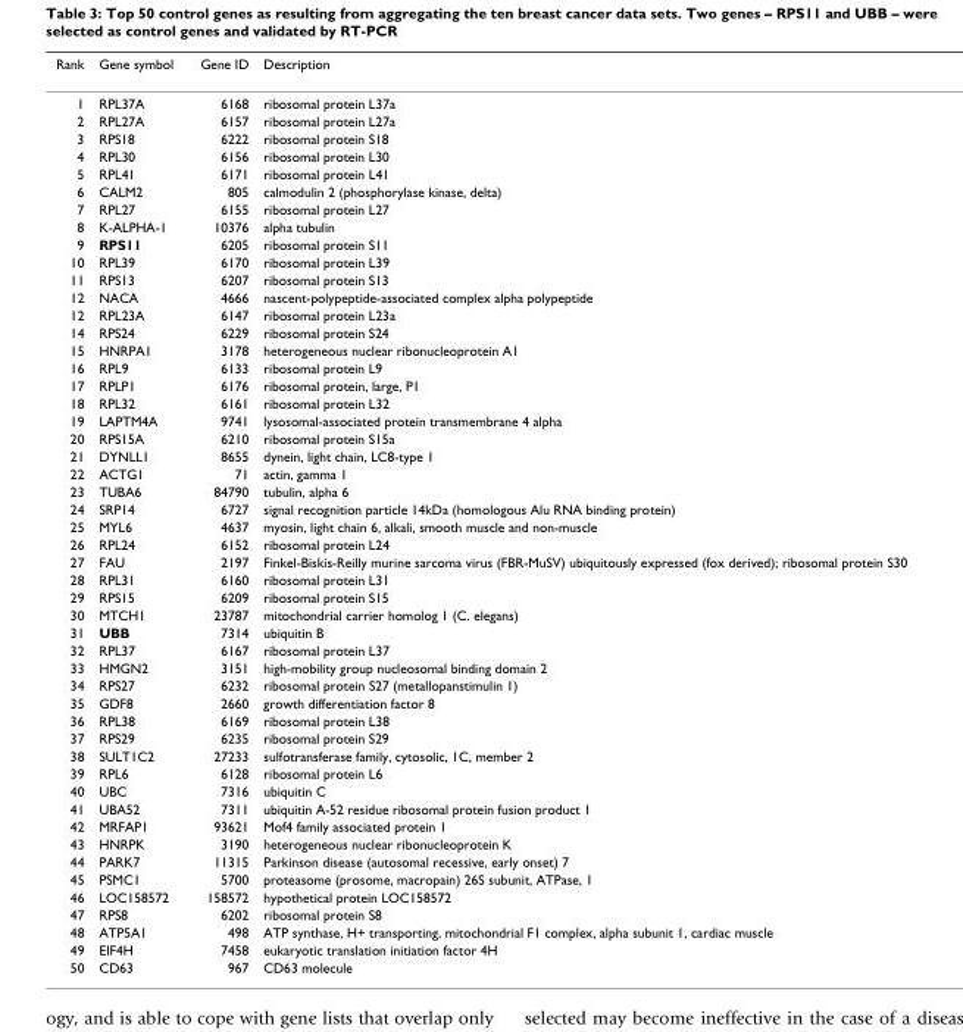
<table><thead><tr><td>Rank</td><td>Gene symbol</td><td>Gene ID</td><td>Description</td></tr></thead><tbody><tr><td>1</td><td>RPL37A</td><td>6168</td><td>ribosomal protein L37a</td></tr><tr><td>2</td><td>RPL27A</td><td>6157</td><td>ribosomal protein L27a</td></tr><tr><td>3</td><td>RPS18</td><td>6222</td><td>ribosomal protein S18</td></tr><tr><td>4</td><td>RPL30</td><td>6156</td><td>ribosomal protein L30</td></tr><tr><td>5</td><td>RPL41</td><td>6171</td><td>ribosomal protein L41</td></tr><tr><td>6</td><td>CALM2</td><td>805</td><td>calmodulin 2 (phosphorylase kinase, delta)</td></tr><tr><td>7</td><td>RPL27</td><td>6155</td><td>ribosomal protein L27</td></tr><tr><td>8</td><td>K-ALPHA-1</td><td>10376</td><td>alpha tubulin</td></tr><tr><td>9</td><td>RPS11</td><td>6205</td><td>ribosomal protein S11</td></tr><tr><td>10</td><td>RPL39</td><td>6170</td><td>ribosomal protein L39</td></tr><tr><td>11</td><td>RPS13</td><td>6207</td><td>ribosomal protein S13</td></tr><tr><td>12</td><td>NACA</td><td>4666</td><td>nascent-polypeptide-associated complex alpha polypeptide</td></tr><tr><td>12</td><td>RPL23A</td><td>6147</td><td>ribosomal protein L23a</td></tr><tr><td>14</td><td>RPS24</td><td>6229</td><td>ribosomal protein S24</td></tr><tr><td>15</td><td>HNRPA1</td><td>3178</td><td>heterogeneous nuclear ribonucleoprotein A1</td></tr><tr><td>16</td><td>RPL9</td><td>6133</td><td>ribosomal protein L9</td></tr><tr><td>17</td><td>RPLP1</td><td>6176</td><td>ribosomal protein, large, P1</td></tr><tr><td>18</td><td>RPL32</td><td>6161</td><td>ribosomal protein L32</td></tr><tr><td>19</td><td>LAPTM4A</td><td>9741</td><td>lysosomal-associated protein transmembrane 4 alpha</td></tr><tr><td>20</td><td>RPS15A</td><td>6210</td><td>ribosomal protein S15a</td></tr><tr><td>21</td><td>DYNLL1</td><td>8655</td><td>dynein, light chain, LC8-type 1</td></tr><tr><td>22</td><td>ACTG1</td><td>71</td><td>actin, gamma 1</td></tr><tr><td>23</td><td>TUBA6</td><td>84790</td><td>tubulin, alpha 6</td></tr><tr><td>24</td><td>SRP14</td><td>6727</td><td>signal recognition particle 14kDa (homologous Alu RNA binding protein)</td></tr><tr><td>25</td><td>MYL6</td><td>4637</td><td>myosin, light chain 6, alkali, smooth muscle and non-muscle</td></tr><tr><td>26</td><td>RPL24</td><td>6152</td><td>ribosomal protein L24</td></tr><tr><td>27</td><td>FAU</td><td>2197</td><td>Finkel-Biskis-Reilly murine sarcoma virus (FBR-MuSV) ubiquitously expressed (fox derived); ribosomal protein S30</td></tr><tr><td>28</td><td>RPL31</td><td>6160</td><td>ribosomal protein L31</td></tr><tr><td>29</td><td>RPS15</td><td>6209</td><td>ribosomal protein S15</td></tr><tr><td>30</td><td>MTCH1</td><td>23787</td><td>mitochondrial carrier homolog 1 (C. elegans)</td></tr><tr><td>31</td><td>UBB</td><td>7314</td><td>ubiquitin B</td></tr><tr><td>32</td><td>RPL37</td><td>6167</td><td>ribosomal protein L37</td></tr><tr><td>33</td><td>HMGN2</td><td>3151</td><td>high-mobility group nucleosomal binding domain 2</td></tr><tr><td>34</td><td>RPS27</td><td>6232</td><td>ribosomal protein S27 (metallopanstimulin 1)</td></tr><tr><td>35</td><td>GDF8</td><td>2660</td><td>growth differentiation factor 8</td></tr><tr><td>36</td><td>RPL38</td><td>6169</td><td>ribosomal protein L38</td></tr><tr><td>37</td><td>RPS29</td><td>6235</td><td>ribosomal protein S29</td></tr><tr><td>38</td><td>SULT1C2</td><td>27233</td><td>sulfotransferase family, cytosolic, 1C, member 2</td></tr><tr><td>39</td><td>RPL6</td><td>6128</td><td>ribosomal protein L6</td></tr><tr><td>40</td><td>UBC</td><td>7316</td><td>ubiquitin C</td></tr><tr><td>41</td><td>UBA52</td><td>7311</td><td>ubiquitin A-52 residue ribosomal protein fusion product 1</td></tr><tr><td>42</td><td>MRFAP1</td><td>93621</td><td>Mof4 family associated protein 1</td></tr><tr><td>43</td><td>HNRPK</td><td>3190</td><td>heterogeneous nuclear ribonucleoprotein K</td></tr><tr><td>44</td><td>PARK7</td><td>11315</td><td>Parkinson disease (autosomal recessive, early onset) 7</td></tr><tr><td>45</td><td>PSMC1</td><td>5700</td><td>proteasome (prosome, macropain) 26S subunit, ATPase, 1</td></tr><tr><td>46</td><td>LOC158572</td><td>158572</td><td>hypothetical protein LOC158572</td></tr><tr><td>47</td><td>RPS8</td><td>6202</td><td>ribosomal protein S8</td></tr><tr><td>48</td><td>ATP5A1</td><td>498</td><td>ATP synthase, H+ transporting, mitochondrial F1 complex, alpha subunit 1, cardiac muscle</td></tr><tr><td>49</td><td>EIF4H</td><td>7458</td><td>eukaryotic translation initiation factor 4H</td></tr><tr><td>50</td><td>CD63</td><td>967</td><td>CD63 molecule</td></tr></tbody></table>